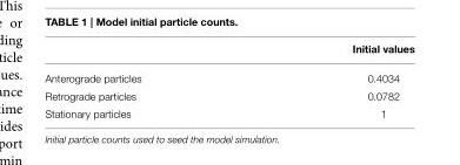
<table><thead><tr><td></td><td>Initial values</td></tr></thead><tbody><tr><td>Anterograde particles</td><td>0.4034</td></tr><tr><td>Retrograde particles</td><td>0.0782</td></tr><tr><td>Stationary particles</td><td>1</td></tr></tbody></table>